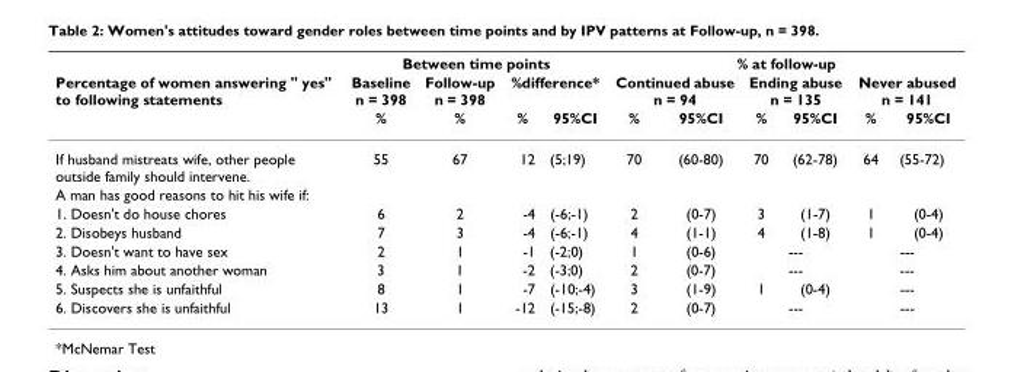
<table><thead><tr><td rowspan="3">Percentage of women answering &quot; yes&quot; to following statements</td><td colspan="4">Between time points</td><td colspan="6">% at follow-up</td></tr><tr><td rowspan="2">Baseline n = 398 %</td><td rowspan="2">Follow-up n = 398 %</td><td colspan="2">%difference*</td><td colspan="2">Continued abuse n = 94</td><td colspan="2">Ending abuse n = 135</td><td colspan="2">Never abused n = 141</td></tr><tr><td>%</td><td>95%CI</td><td>%</td><td>95%CI</td><td>%</td><td>95%CI</td><td>%</td><td>95%CI</td></tr></thead><tbody><tr><td>If husband mistreats wife, other people outside family should intervene.</td><td>55</td><td>67</td><td>12</td><td>(5;19)</td><td>70</td><td>(60-80)</td><td>70</td><td>(62-78)</td><td>64</td><td>(55-72)</td></tr><tr><td colspan="11">A man has good reasons to hit his wife if:</td></tr><tr><td>1. Doesn&#x27;t do house chores</td><td>6</td><td>2</td><td>-4</td><td>(-6;-1)</td><td>2</td><td>(0-7)</td><td>3</td><td>(1-7)</td><td>1</td><td>(0-4)</td></tr><tr><td>2. Disobeys husband</td><td>7</td><td>3</td><td>-4</td><td>(-6;-1)</td><td>4</td><td>(1-1)</td><td>4</td><td>(1-8)</td><td>1</td><td>(0-4)</td></tr><tr><td>3. Doesn&#x27;t want to have sex</td><td>2</td><td>1</td><td>-1</td><td>(-2;0)</td><td>1</td><td>(0-6)</td><td colspan="2">---</td><td colspan="2">---</td></tr><tr><td>4. Asks him about another woman</td><td>3</td><td>1</td><td>-2</td><td>(-3;0)</td><td>2</td><td>(0-7)</td><td colspan="2">---</td><td colspan="2">---</td></tr><tr><td>5. Suspects she is unfaithful</td><td>8</td><td>1</td><td>-7</td><td>(-10;-4)</td><td>3</td><td>(1-9)</td><td>1</td><td>(0-4)</td><td colspan="2">---</td></tr><tr><td>6. Discovers she is unfaithful</td><td>13</td><td>1</td><td>-12</td><td>(-15;-8)</td><td>2</td><td>(0-7)</td><td colspan="2">---</td><td colspan="2">---</td></tr></tbody></table>